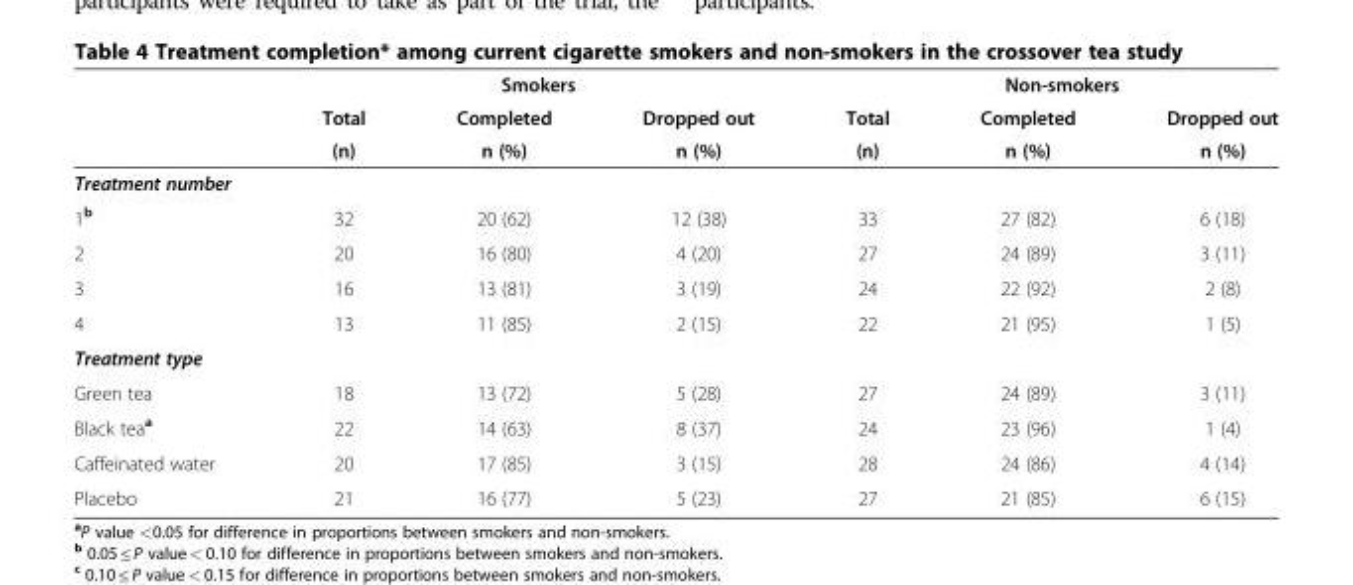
<table><thead><tr><td rowspan="3"></td><td colspan="3">Smokers</td><td colspan="3">Non-smokers</td></tr><tr><td rowspan="2">Total (n)</td><td rowspan="2">Completed n (%)</td><td rowspan="2">Dropped out n (%)</td><td rowspan="2">Total (n)</td><td rowspan="2">Completed n (%)</td><td rowspan="2">Dropped out n (%)</td></tr><tr></tr></thead><tbody><tr><td colspan="7">Treatment number</td></tr><tr><td>1<sup>b</sup></td><td>32</td><td>20 (62)</td><td>12 (38)</td><td>33</td><td>27 (82)</td><td>6 (18)</td></tr><tr><td>2</td><td>20</td><td>16 (80)</td><td>4 (20)</td><td>27</td><td>24 (89)</td><td>3 (11)</td></tr><tr><td>3</td><td>16</td><td>13 (81)</td><td>3 (19)</td><td>24</td><td>22 (92)</td><td>2 (8)</td></tr><tr><td>4</td><td>13</td><td>11 (85)</td><td>2 (15)</td><td>22</td><td>21 (95)</td><td>1 (5)</td></tr><tr><td colspan="7">Treatment type</td></tr><tr><td>Green tea</td><td>18</td><td>13 (72)</td><td>5 (28)</td><td>27</td><td>24 (89)</td><td>3 (11)</td></tr><tr><td>Black tea<sup>a</sup></td><td>22</td><td>14 (63)</td><td>8 (37)</td><td>24</td><td>23 (96)</td><td>1 (4)</td></tr><tr><td>Caffeinated water</td><td>20</td><td>17 (85)</td><td>3 (15)</td><td>28</td><td>24 (86)</td><td>4 (14)</td></tr><tr><td>Placebo</td><td>21</td><td>16 (77)</td><td>5 (23)</td><td>27</td><td>21 (85)</td><td>6 (15)</td></tr></tbody></table>